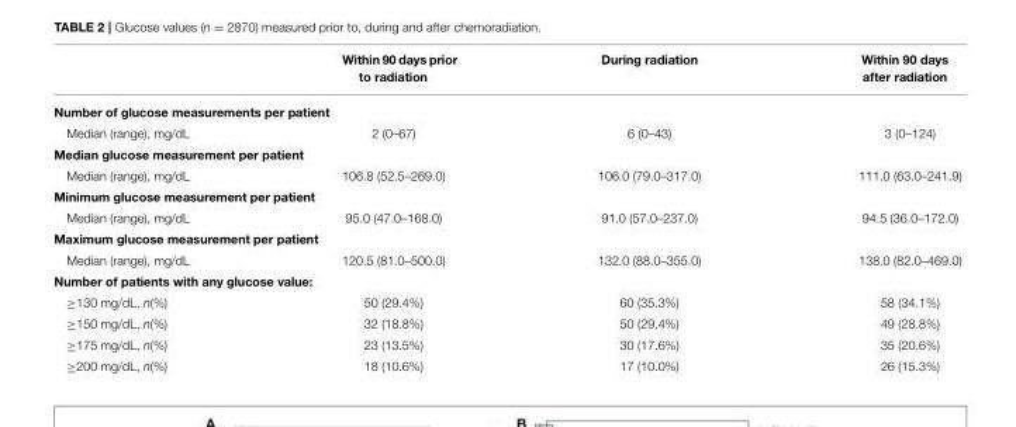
<table><thead><tr><td></td><td>Within 90 days prior to radiation</td><td>During radiation</td><td>Within 90 days after radiation</td></tr></thead><tbody><tr><td colspan="4">Number of glucose measurements per patient</td></tr><tr><td>Median (range), mg/dL</td><td>2 (0–67)</td><td>6 (0–43)</td><td>3 (0–124)</td></tr><tr><td colspan="4">Median glucose measurement per patient</td></tr><tr><td>Median (range), mg/dL</td><td>106.8 (52.5–269.0)</td><td>106.0 (79.0–317.0)</td><td>111.0 (63.0–241.9)</td></tr><tr><td colspan="4">Minimum glucose measurement per patient</td></tr><tr><td>Median (range), mg/dL</td><td>95.0 (47.0–168.0)</td><td>91.0 (57.0–237.0)</td><td>94.5 (36.0–172.0)</td></tr><tr><td colspan="4">Maximum glucose measurement per patient</td></tr><tr><td>Median (range), mg/dL</td><td>120.5 (81.0–500.0)</td><td>132.0 (88.0–355.0)</td><td>138.0 (82.0–469.0)</td></tr><tr><td colspan="4">Number of patients with any glucose value:</td></tr><tr><td>≥130 mg/dL, n(%)</td><td>50 (29.4%)</td><td>60 (35.3%)</td><td>58 (34.1%)</td></tr><tr><td>≥150 mg/dL, n(%)</td><td>32 (18.8%)</td><td>50 (29.4%)</td><td>49 (28.8%)</td></tr><tr><td>≥175 mg/dL, n(%)</td><td>23 (13.5%)</td><td>30 (17.6%)</td><td>35 (20.6%)</td></tr><tr><td>≥200 mg/dL, n(%)</td><td>18 (10.6%)</td><td>17 (10.0%)</td><td>26 (15.3%)</td></tr></tbody></table>